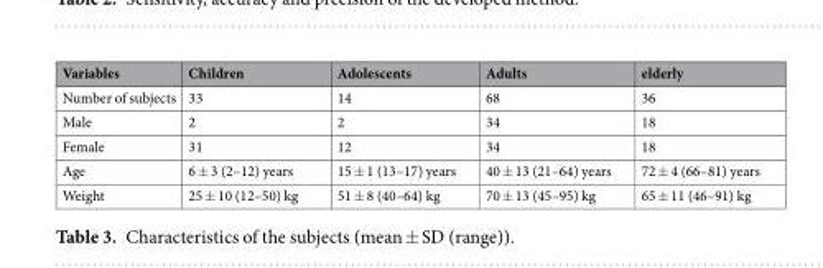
<table><thead><tr><td>Variables</td><td>Children</td><td>Adolescents</td><td>Adults</td><td>elderly</td></tr></thead><tbody><tr><td>Number of subjects</td><td>33</td><td>14</td><td>68</td><td>36</td></tr><tr><td>Male</td><td>2</td><td>2</td><td>34</td><td>18</td></tr><tr><td>Female</td><td>31</td><td>12</td><td>34</td><td>18</td></tr><tr><td>Age</td><td>6 ± 3 (2–12) years</td><td>15 ± 1 (13–17) years</td><td>40 ± 13 (21–64) years</td><td>72 ± 4 (66–81) years</td></tr><tr><td>Weight</td><td>25 ± 10 (12–50) kg</td><td>51 ± 8 (40–64) kg</td><td>70 ± 13 (45–95) kg</td><td>65 ± 11 (46–91) kg</td></tr></tbody></table>